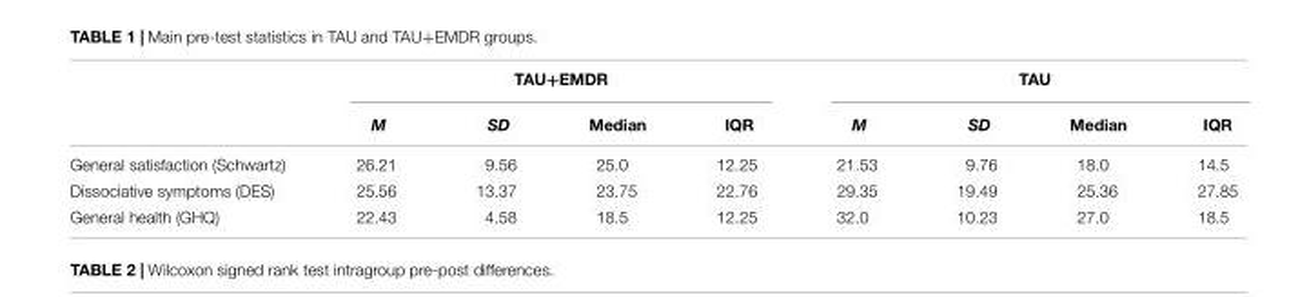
<table><thead><tr><td rowspan="2"></td><td colspan="4">TAU+EMDR</td><td colspan="4">TAU</td></tr><tr><td>M</td><td>SD</td><td>Median</td><td>IQR</td><td>M</td><td>SD</td><td>Median</td><td>IQR</td></tr></thead><tbody><tr><td>General satisfaction (Schwartz)</td><td>26.21</td><td>9.56</td><td>25.0</td><td>12.25</td><td>21.53</td><td>9.76</td><td>18.0</td><td>14.5</td></tr><tr><td>Dissociative symptoms (DES)</td><td>25.56</td><td>13.37</td><td>23.75</td><td>22.76</td><td>29.35</td><td>19.49</td><td>25.36</td><td>27.85</td></tr><tr><td>General health (GHQ)</td><td>22.43</td><td>4.58</td><td>18.5</td><td>12.25</td><td>32.0</td><td>10.23</td><td>27.0</td><td>18.5</td></tr></tbody></table>